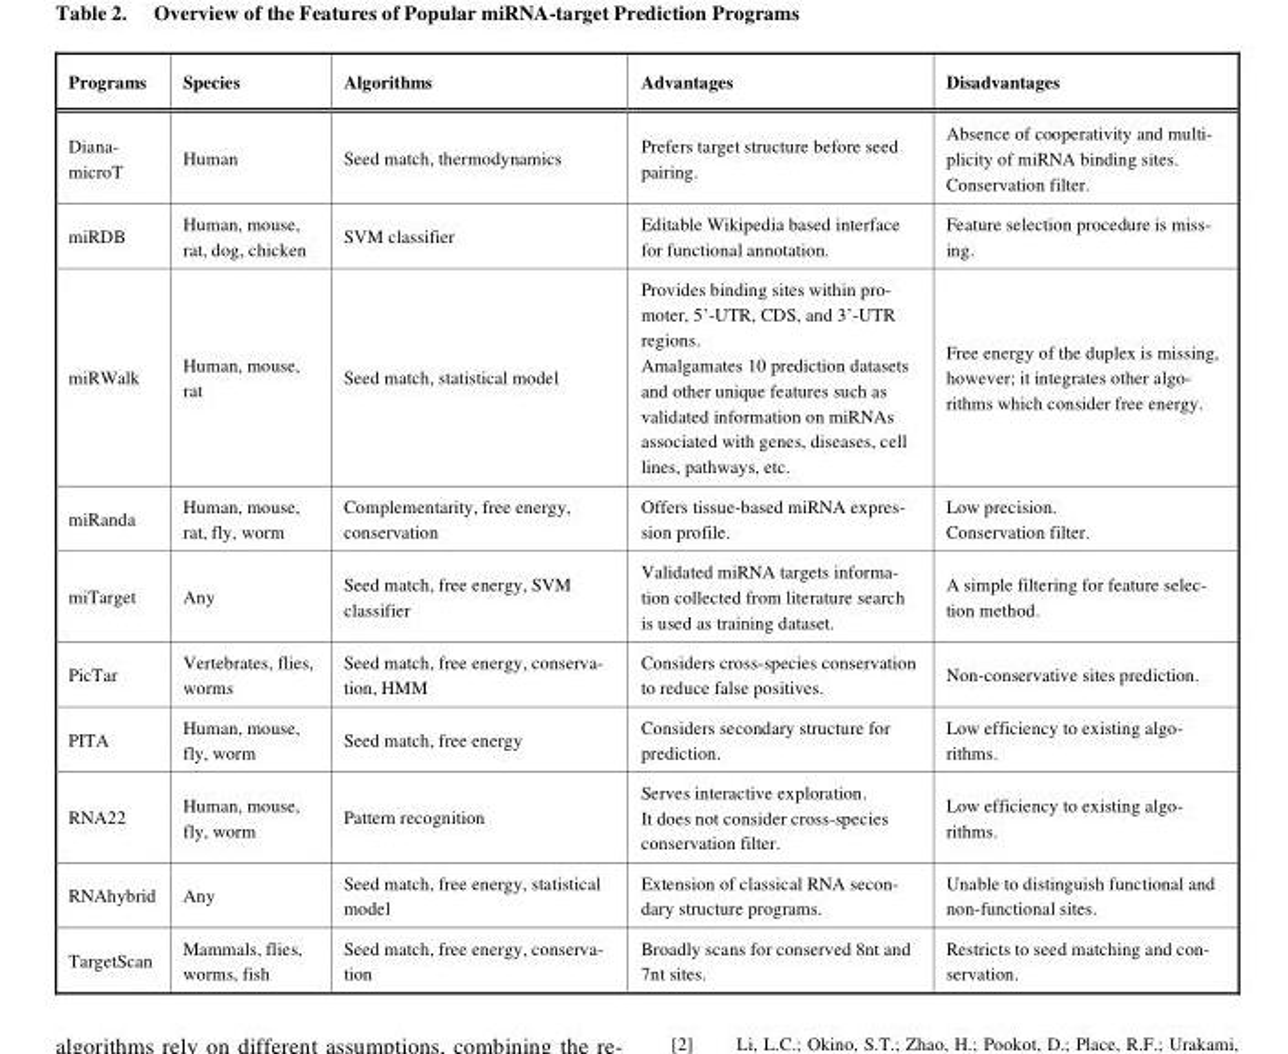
<table><thead><tr><td>Programs</td><td>Species</td><td>Algorithms</td><td>Advantages</td><td>Disadvantages</td></tr></thead><tbody><tr><td>Diana- microT</td><td>Human</td><td>Seed match, thermodynamics</td><td>Prefers target structure before seed pairing.</td><td>Absence of cooperativity and multi- plicity of miRNA binding sites. Conservation filter.</td></tr><tr><td>miRDB</td><td>Human, mouse, rat, dog, chicken</td><td>SVM classifier</td><td>Editable Wikipedia based interface for functional annotation.</td><td>Feature selection procedure is miss- ing.</td></tr><tr><td>miRWalk</td><td>Human, mouse, rat</td><td>Seed match, statistical model</td><td>Provides binding sites within pro- moter, 5’-UTR, CDS, and 3’-UTR regions. Amalgamates 10 prediction datasets and other unique features such as validated information on miRNAs associated with genes, diseases, cell lines, pathways, etc.</td><td>Free energy of the duplex is missing, however; it integrates other algo- rithms which consider free energy.</td></tr><tr><td>miRanda</td><td>Human, mouse, rat, fly, worm</td><td>Complementarity, free energy, conservation</td><td>Offers tissue-based miRNA expres- sion profile.</td><td>Low precision. Conservation filter.</td></tr><tr><td>miTarget</td><td>Any</td><td>Seed match, free energy, SVM classifier</td><td>Validated miRNA targets informa- tion collected from literature search is used as training dataset.</td><td>A simple filtering for feature selec- tion method.</td></tr><tr><td>PicTar</td><td>Vertebrates, flies, worms</td><td>Seed match, free energy, conserva- tion, HMM</td><td>Considers cross-species conservation to reduce false positives.</td><td>Non-conservative sites prediction.</td></tr><tr><td>PITA</td><td>Human, mouse, fly, worm</td><td>Seed match, free energy</td><td>Considers secondary structure for prediction.</td><td>Low efficiency to existing algo- rithms.</td></tr><tr><td>RNA22</td><td>Human, mouse, fly, worm</td><td>Pattern recognition</td><td>Serves interactive exploration. It does not consider cross-species conservation filter.</td><td>Low efficiency to existing algo- rithms.</td></tr><tr><td>RNAhybrid</td><td>Any</td><td>Seed match, free energy, statistical model</td><td>Extension of classical RNA secon- dary structure programs.</td><td>Unable to distinguish functional and non-functional sites.</td></tr><tr><td>TargetScan</td><td>Mammals, flies, worms, fish</td><td>Seed match, free energy, conserva- tion</td><td>Broadly scans for conserved 8nt and 7nt sites.</td><td>Restricts to seed matching and con- servation.</td></tr></tbody></table>